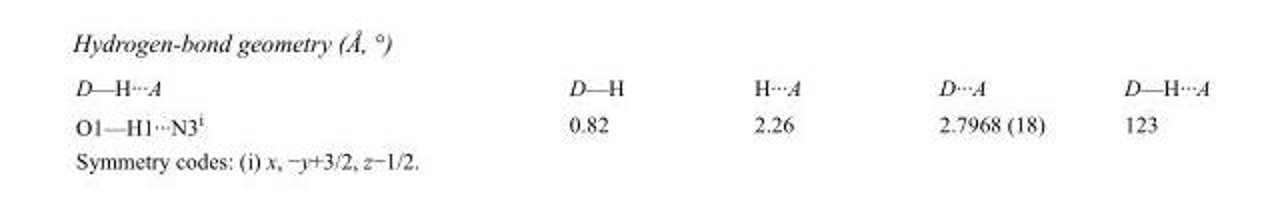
<table><tbody><tr><td>D—H···A</td><td>D—H</td><td>H···A</td><td>D···A</td><td>D—H···A</td></tr><tr><td>O1—H1···N3<sup>i</sup></td><td>0.82</td><td>2.26</td><td>2.7968 (18)</td><td>123</td></tr></tbody></table>